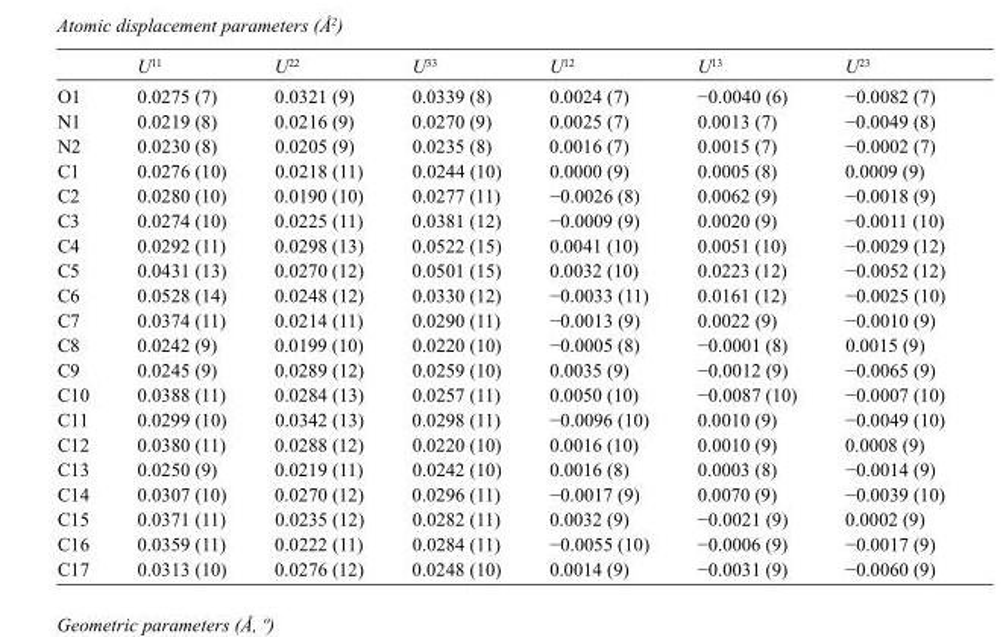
<table><thead><tr><td></td><td>U<sup>11</sup></td><td>U<sup>22</sup></td><td>U<sup>33</sup></td><td>U<sup>12</sup></td><td>U<sup>13</sup></td><td>U<sup>23</sup></td></tr></thead><tbody><tr><td>O1</td><td>0.0275 (7)</td><td>0.0321 (9)</td><td>0.0339 (8)</td><td>0.0024 (7)</td><td>−0.0040 (6)</td><td>−0.0082 (7)</td></tr><tr><td>N1</td><td>0.0219 (8)</td><td>0.0216 (9)</td><td>0.0270 (9)</td><td>0.0025 (7)</td><td>0.0013 (7)</td><td>−0.0049 (8)</td></tr><tr><td>N2</td><td>0.0230 (8)</td><td>0.0205 (9)</td><td>0.0235 (8)</td><td>0.0016 (7)</td><td>0.0015 (7)</td><td>−0.0002 (7)</td></tr><tr><td>C1</td><td>0.0276 (10)</td><td>0.0218 (11)</td><td>0.0244 (10)</td><td>0.0000 (9)</td><td>0.0005 (8)</td><td>0.0009 (9)</td></tr><tr><td>C2</td><td>0.0280 (10)</td><td>0.0190 (10)</td><td>0.0277 (11)</td><td>−0.0026 (8)</td><td>0.0062 (9)</td><td>−0.0018 (9)</td></tr><tr><td>C3</td><td>0.0274 (10)</td><td>0.0225 (11)</td><td>0.0381 (12)</td><td>−0.0009 (9)</td><td>0.0020 (9)</td><td>−0.0011 (10)</td></tr><tr><td>C4</td><td>0.0292 (11)</td><td>0.0298 (13)</td><td>0.0522 (15)</td><td>0.0041 (10)</td><td>0.0051 (10)</td><td>−0.0029 (12)</td></tr><tr><td>C5</td><td>0.0431 (13)</td><td>0.0270 (12)</td><td>0.0501 (15)</td><td>0.0032 (10)</td><td>0.0223 (12)</td><td>−0.0052 (12)</td></tr><tr><td>C6</td><td>0.0528 (14)</td><td>0.0248 (12)</td><td>0.0330 (12)</td><td>−0.0033 (11)</td><td>0.0161 (12)</td><td>−0.0025 (10)</td></tr><tr><td>C7</td><td>0.0374 (11)</td><td>0.0214 (11)</td><td>0.0290 (11)</td><td>−0.0013 (9)</td><td>0.0022 (9)</td><td>−0.0010 (9)</td></tr><tr><td>C8</td><td>0.0242 (9)</td><td>0.0199 (10)</td><td>0.0220 (10)</td><td>−0.0005 (8)</td><td>−0.0001 (8)</td><td>0.0015 (9)</td></tr><tr><td>C9</td><td>0.0245 (9)</td><td>0.0289 (12)</td><td>0.0259 (10)</td><td>0.0035 (9)</td><td>−0.0012 (9)</td><td>−0.0065 (9)</td></tr><tr><td>C10</td><td>0.0388 (11)</td><td>0.0284 (13)</td><td>0.0257 (11)</td><td>0.0050 (10)</td><td>−0.0087 (10)</td><td>−0.0007 (10)</td></tr><tr><td>C11</td><td>0.0299 (10)</td><td>0.0342 (13)</td><td>0.0298 (11)</td><td>−0.0096 (10)</td><td>0.0010 (9)</td><td>−0.0049 (10)</td></tr><tr><td>C12</td><td>0.0380 (11)</td><td>0.0288 (12)</td><td>0.0220 (10)</td><td>0.0016 (10)</td><td>0.0010 (9)</td><td>0.0008 (9)</td></tr><tr><td>C13</td><td>0.0250 (9)</td><td>0.0219 (11)</td><td>0.0242 (10)</td><td>0.0016 (8)</td><td>0.0003 (8)</td><td>−0.0014 (9)</td></tr><tr><td>C14</td><td>0.0307 (10)</td><td>0.0270 (12)</td><td>0.0296 (11)</td><td>−0.0017 (9)</td><td>0.0070 (9)</td><td>−0.0039 (10)</td></tr><tr><td>C15</td><td>0.0371 (11)</td><td>0.0235 (12)</td><td>0.0282 (11)</td><td>0.0032 (9)</td><td>−0.0021 (9)</td><td>0.0002 (9)</td></tr><tr><td>C16</td><td>0.0359 (11)</td><td>0.0222 (11)</td><td>0.0284 (11)</td><td>−0.0055 (10)</td><td>−0.0006 (9)</td><td>−0.0017 (9)</td></tr><tr><td>C17</td><td>0.0313 (10)</td><td>0.0276 (12)</td><td>0.0248 (10)</td><td>0.0014 (9)</td><td>−0.0031 (9)</td><td>−0.0060 (9)</td></tr></tbody></table>